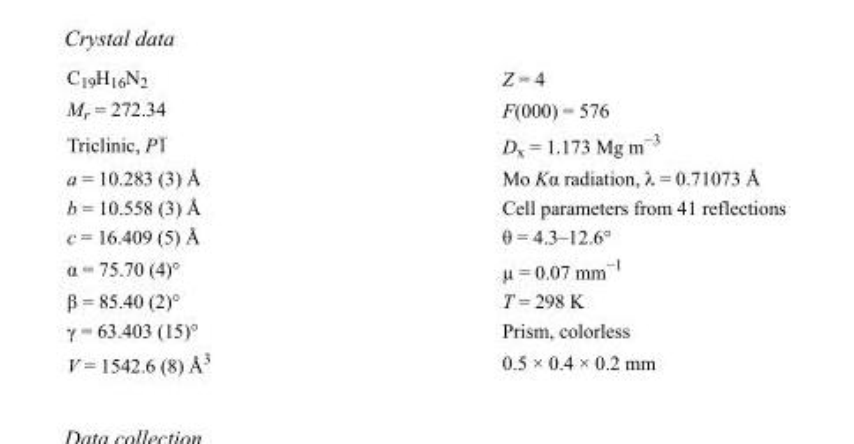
<table><tbody><tr><td>C<sub>19</sub>H<sub>16</sub>N<sub>2</sub></td><td>Z = 4</td></tr><tr><td>M<sub>r</sub> = 272.34</td><td>F(000) = 576</td></tr><tr><td>Triclinic, P1</td><td>D<sub>x</sub> = 1.173 Mg m<sup>−3</sup></td></tr><tr><td>a = 10.283 (3) Å</td><td>Mo Kα radiation, λ = 0.71073 Å</td></tr><tr><td>b = 10.558 (3) Å</td><td>Cell parameters from 41 reflections</td></tr><tr><td>c = 16.409 (5) Å</td><td>θ = 4.3–12.6°</td></tr><tr><td>α = 75.70 (4)°</td><td>µ = 0.07 mm<sup>−1</sup></td></tr><tr><td>β = 85.40 (2)°</td><td>T = 298 K</td></tr><tr><td>γ = 63.403 (15)°</td><td>Prism, colorless</td></tr><tr><td>V = 1542.6 (8) Å<sup>3</sup></td><td>0.5 × 0.4 × 0.2 mm</td></tr></tbody></table>